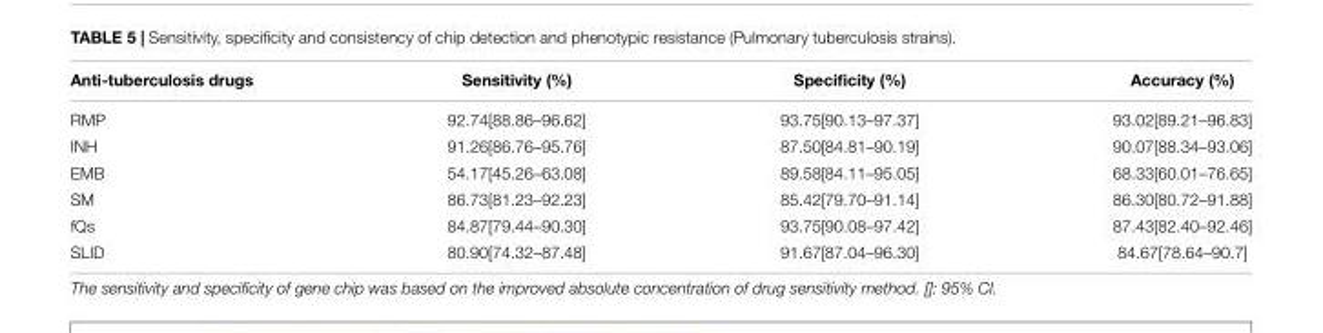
<table><thead><tr><td>Anti-tuberculosis drugs</td><td>Sensitivity (%)</td><td>Specificity (%)</td><td>Accuracy (%)</td></tr></thead><tbody><tr><td>RMP</td><td>92.74[88.86–96.62]</td><td>93.75[90.13–97.37]</td><td>93.02[89.21–96.83]</td></tr><tr><td>INH</td><td>91.26[86.76–95.76]</td><td>87.50[84.81–90.19]</td><td>90.07[88.34–93.06]</td></tr><tr><td>EMB</td><td>54.17[45.26–63.08]</td><td>89.58[84.11–95.05]</td><td>68.33[60.01–76.65]</td></tr><tr><td>SM</td><td>86.73[81.23–92.23]</td><td>85.42[79.70–91.14]</td><td>86.30[80.72–91.88]</td></tr><tr><td>fQs</td><td>84.87[79.44–90.30]</td><td>93.75[90.08–97.42]</td><td>87.43[82.40–92.46]</td></tr><tr><td>SLID</td><td>80.90[74.32–87.48]</td><td>91.67[87.04–96.30]</td><td>84.67[78.64–90.7]</td></tr></tbody></table>